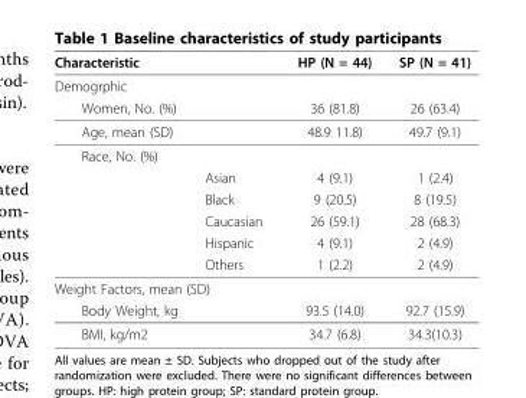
<table><thead><tr><td rowspan="2" colspan="2">Characteristic Demogrphic</td><td rowspan="3">HP (N = 44) 36 (81.8)</td><td rowspan="3">SP (N = 41) 26 (63.4)</td></tr><tr></tr><tr><td>Women, No. (%)</td><td></td></tr></thead><tbody><tr><td>Age, mean (SD)</td><td></td><td>48.9 11.8)</td><td>49.7 (9.1)</td></tr><tr><td colspan="4">Race, No. (%)</td></tr><tr><td></td><td>Asian</td><td>4 (9.1)</td><td>1 (2.4)</td></tr><tr><td></td><td>Black</td><td>9 (20.5)</td><td>8 (19.5)</td></tr><tr><td></td><td>Caucasian</td><td>26 (59.1)</td><td>28 (68.3)</td></tr><tr><td></td><td>Hispanic</td><td>4 (9.1)</td><td>2 (4.9)</td></tr><tr><td></td><td>Others</td><td>1 (2.2)</td><td>2 (4.9)</td></tr><tr><td colspan="4">Weight Factors, mean (SD)</td></tr><tr><td>Body Weight, kg</td><td></td><td>93.5 (14.0)</td><td>92.7 (15.9)</td></tr><tr><td>BMI, kg/m2</td><td></td><td>34.7 (6.8)</td><td>34.3(10.3)</td></tr></tbody></table>